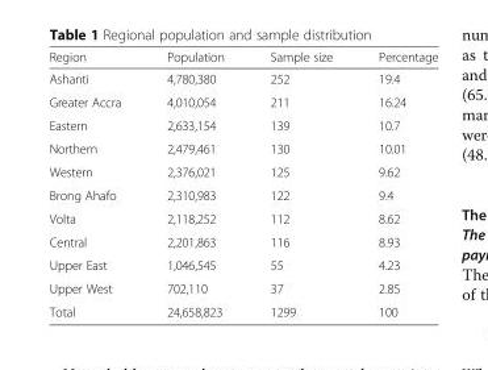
<table><thead><tr><td>Region</td><td>Population</td><td>Sample size</td><td>Percentage</td></tr></thead><tbody><tr><td>Ashanti</td><td>4,780,380</td><td>252</td><td>19.4</td></tr><tr><td>Greater Accra</td><td>4,010,054</td><td>211</td><td>16.24</td></tr><tr><td>Eastern</td><td>2,633,154</td><td>139</td><td>10.7</td></tr><tr><td>Northern</td><td>2,479,461</td><td>130</td><td>10.01</td></tr><tr><td>Western</td><td>2,376,021</td><td>125</td><td>9.62</td></tr><tr><td>Brong Ahafo</td><td>2,310,983</td><td>122</td><td>9.4</td></tr><tr><td>Volta</td><td>2,118,252</td><td>112</td><td>8.62</td></tr><tr><td>Central</td><td>2,201,863</td><td>116</td><td>8.93</td></tr><tr><td>Upper East</td><td>1,046,545</td><td>55</td><td>4.23</td></tr><tr><td>Upper West</td><td>702,110</td><td>37</td><td>2.85</td></tr><tr><td>Total</td><td>24,658,823</td><td>1299</td><td>100</td></tr></tbody></table>